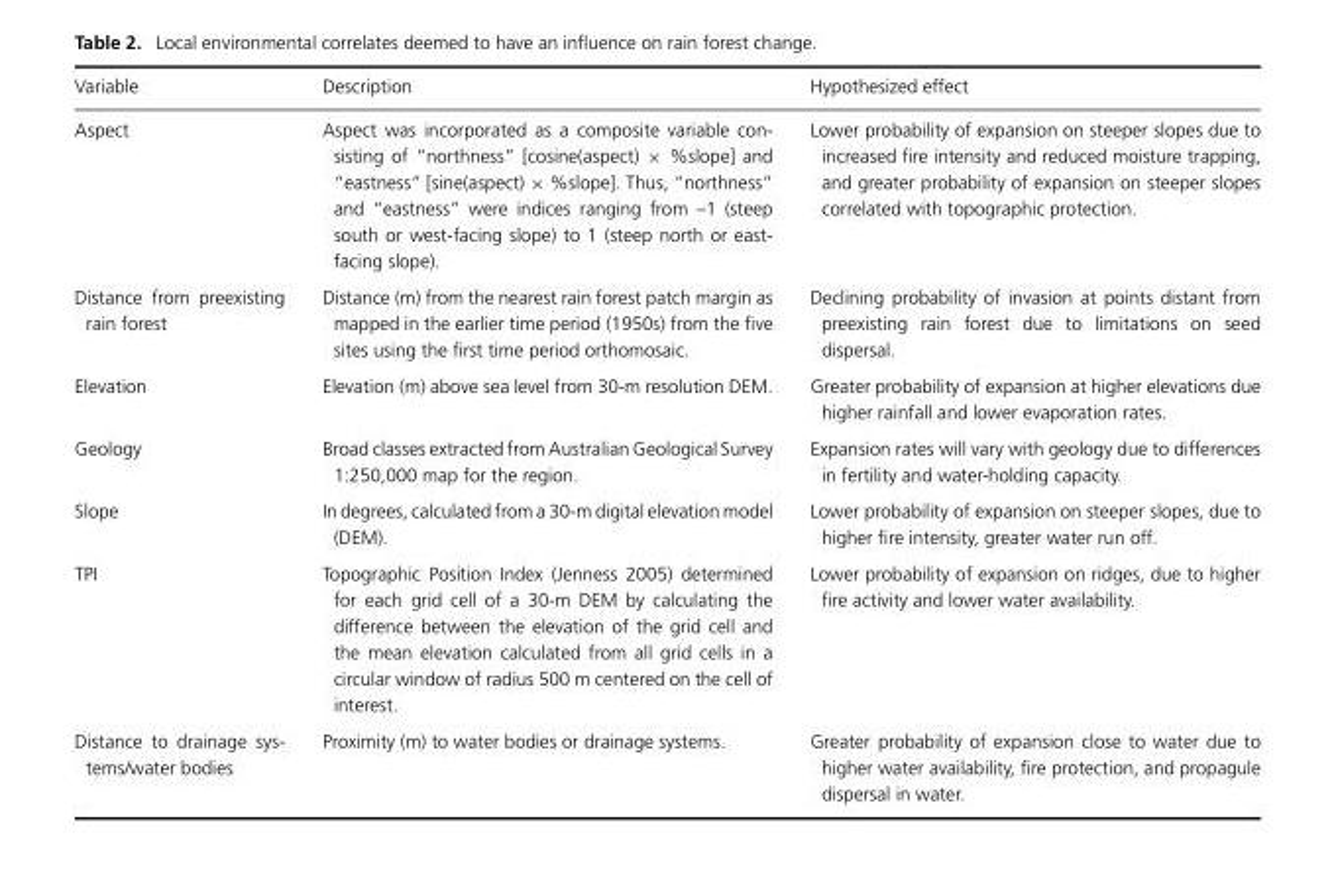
<table><thead><tr><td>Variable</td><td>Description</td><td>Hypothesized effect</td></tr></thead><tbody><tr><td>Aspect</td><td>Aspect was incorporated as a composite variable con- sisting of “northness” [cosine(aspect) × %slope] and “eastness” [sine(aspect) × %slope]. Thus, “northness” and “eastness” were indices ranging from –1 (steep south or west-facing slope) to 1 (steep north or east- facing slope).</td><td>Lower probability of expansion on steeper slopes due to increased fire intensity and reduced moisture trapping, and greater probability of expansion on steeper slopes correlated with topographic protection.</td></tr><tr><td>Distance from preexisting rain forest</td><td>Distance (m) from the nearest rain forest patch margin as mapped in the earlier time period (1950s) from the five sites using the first time period orthomosaic.</td><td>Declining probability of invasion at points distant from preexisting rain forest due to limitations on seed dispersal.</td></tr><tr><td>Elevation</td><td>Elevation (m) above sea level from 30-m resolution DEM.</td><td>Greater probability of expansion at higher elevations due higher rainfall and lower evaporation rates.</td></tr><tr><td>Geology</td><td>Broad classes extracted from Australian Geological Survey 1:250,000 map for the region.</td><td>Expansion rates will vary with geology due to differences in fertility and water-holding capacity.</td></tr><tr><td>Slope</td><td>In degrees, calculated from a 30-m digital elevation model (DEM).</td><td>Lower probability of expansion on steeper slopes, due to higher fire intensity, greater water run off.</td></tr><tr><td>TPI</td><td>Topographic Position Index (Jenness 2005) determined for each grid cell of a 30-m DEM by calculating the difference between the elevation of the grid cell and the mean elevation calculated from all grid cells in a circular window of radius 500 m centered on the cell of interest.</td><td>Lower probability of expansion on ridges, due to higher fire activity and lower water availability.</td></tr><tr><td>Distance to drainage sys- tems/water bodies</td><td>Proximity (m) to water bodies or drainage systems.</td><td>Greater probability of expansion close to water due to higher water availability, fire protection, and propagule dispersal in water.</td></tr></tbody></table>